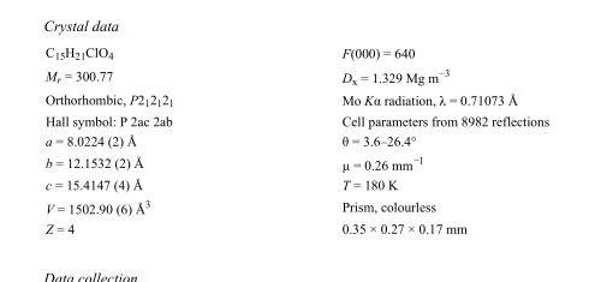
<table><tbody><tr><td>C<sub>15</sub>H<sub>21</sub>ClO<sub>4</sub></td><td>F(000) = 640</td></tr><tr><td>M<sub>r</sub> = 300.77</td><td>D<sub>x</sub> = 1.329 Mg m<sup>−3</sup></td></tr><tr><td>Orthorhombic, P2<sub>1</sub>2<sub>1</sub>2<sub>1</sub></td><td>Mo Kα radiation, λ = 0.71073 Å</td></tr><tr><td>Hall symbol: P 2ac 2ab</td><td>Cell parameters from 8982 reflections</td></tr><tr><td>a = 8.0224 (2) Å</td><td>θ = 3.6–26.4°</td></tr><tr><td>b = 12.1532 (2) Å</td><td>µ = 0.26 mm<sup>−1</sup></td></tr><tr><td>c = 15.4147 (4) Å</td><td>T = 180 K</td></tr><tr><td>V = 1502.90 (6) Å<sup>3</sup></td><td>Prism, colourless</td></tr><tr><td>Z = 4</td><td>0.35 × 0.27 × 0.17 mm</td></tr></tbody></table>